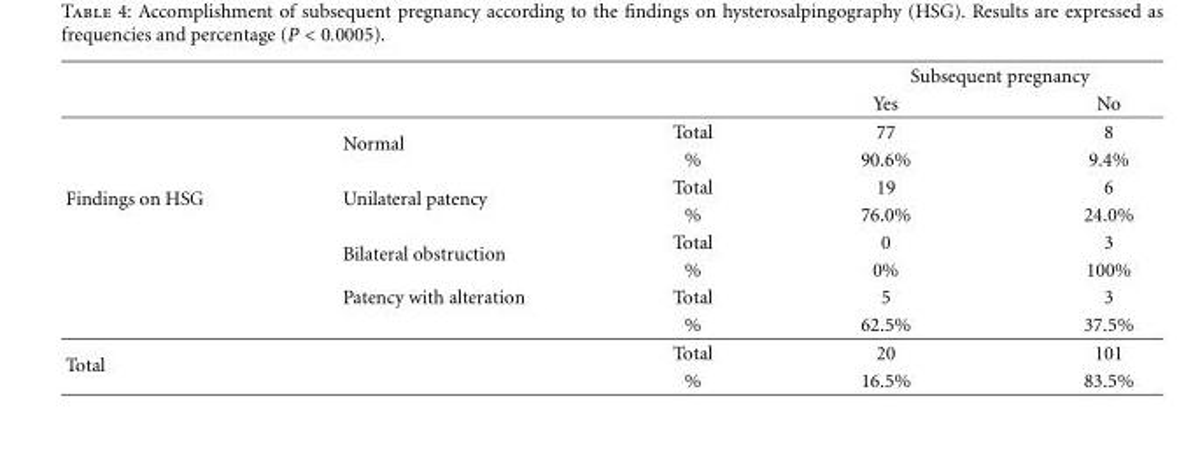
<table><thead><tr><td rowspan="2"></td><td rowspan="2"></td><td rowspan="2"></td><td colspan="2">Subsequent pregnancy</td></tr><tr><td>Yes</td><td>No</td></tr></thead><tbody><tr><td rowspan="8">Findings on HSG</td><td rowspan="2">Normal</td><td>Total</td><td>77</td><td>8</td></tr><tr><td>%</td><td>90.6%</td><td>9.4%</td></tr><tr><td rowspan="2">Unilateral patency</td><td>Total</td><td>19</td><td>6</td></tr><tr><td>%</td><td>76.0%</td><td>24.0%</td></tr><tr><td rowspan="2">Bilateral obstruction</td><td>Total</td><td>0</td><td>3</td></tr><tr><td>%</td><td>0%</td><td>100%</td></tr><tr><td rowspan="2">Patency with alteration</td><td>Total</td><td>5</td><td>3</td></tr><tr><td>%</td><td>62.5%</td><td>37.5%</td></tr><tr><td rowspan="2">Total</td><td></td><td>Total</td><td>20</td><td>101</td></tr><tr><td></td><td>%</td><td>16.5%</td><td>83.5%</td></tr></tbody></table>